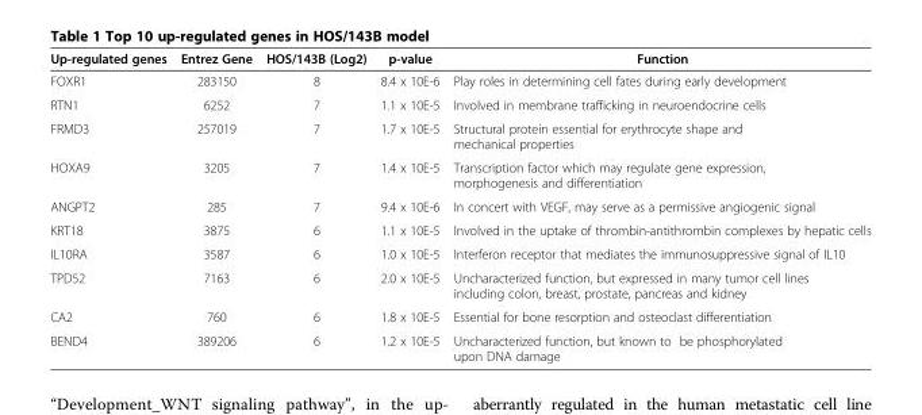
<table><thead><tr><td>Up-regulated genes</td><td>Entrez Gene</td><td>HOS/143B (Log2)</td><td>p-value</td><td>Function</td></tr></thead><tbody><tr><td>FOXR1</td><td>283150</td><td>8</td><td>8.4 x 10E-6</td><td>Play roles in determining cell fates during early development</td></tr><tr><td>RTN1</td><td>6252</td><td>7</td><td>1.1 x 10E-5</td><td>Involved in membrane trafficking in neuroendocrine cells</td></tr><tr><td>FRMD3</td><td>257019</td><td>7</td><td>1.7 x 10E-5</td><td>Structural protein essential for erythrocyte shape and mechanical properties</td></tr><tr><td>HOXA9</td><td>3205</td><td>7</td><td>1.4 x 10E-5</td><td>Transcription factor which may regulate gene expression, morphogenesis and differentiation</td></tr><tr><td>ANGPT2</td><td>285</td><td>7</td><td>9.4 x 10E-6</td><td>In concert with VEGF, may serve as a permissive angiogenic signal</td></tr><tr><td>KRT18</td><td>3875</td><td>6</td><td>1.1 x 10E-5</td><td>Involved in the uptake of thrombin-antithrombin complexes by hepatic cells</td></tr><tr><td>IL10RA</td><td>3587</td><td>6</td><td>1.0 x 10E-5</td><td>Interferon receptor that mediates the immunosuppressive signal of IL10</td></tr><tr><td>TPD52</td><td>7163</td><td>6</td><td>2.0 x 10E-5</td><td>Uncharacterized function, but expressed in many tumor cell lines including colon, breast, prostate, pancreas and kidney</td></tr><tr><td>CA2</td><td>760</td><td>6</td><td>1.8 x 10E-5</td><td>Essential for bone resorption and osteoclast differentiation</td></tr><tr><td>BEND4</td><td>389206</td><td>6</td><td>1.2 x 10E-5</td><td>Uncharacterized function, but known to be phosphorylated upon DNA damage</td></tr></tbody></table>